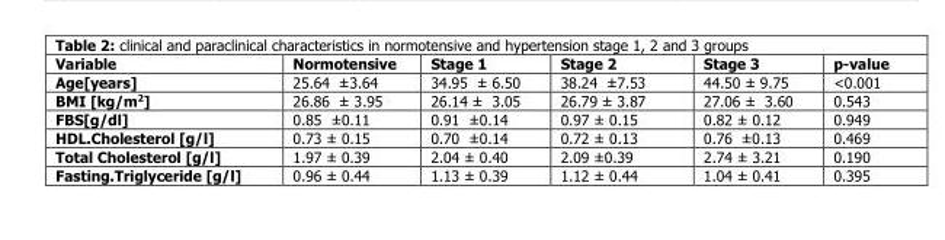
<table><thead><tr><td>Variable</td><td>Normotensive</td><td>Stage 1</td><td>Stage 2</td><td>Stage 3</td><td>p-value</td></tr></thead><tbody><tr><td>Age[years]</td><td>25.64 ±3.64</td><td>34.95 ± 6.50</td><td>38.24 ±7.53</td><td>44.50 ± 9.75</td><td>&lt;0.001</td></tr><tr><td>BMI [kg/m<sup>2</sup>]</td><td>26.86 ± 3.95</td><td>26.14 ± 3.05</td><td>26.79 ± 3.87</td><td>27.06 ± 3.60</td><td>0.543</td></tr><tr><td>FBS[g/dl]</td><td>0.85 ±0.11</td><td>0.91 ±0.14</td><td>0.97 ± 0.15</td><td>0.82 ± 0.12</td><td>0.949</td></tr><tr><td>HDL.Cholesterol [g/l]</td><td>0.73 ± 0.15</td><td>0.70 ±0.14</td><td>0.72 ± 0.13</td><td>0.76 ±0.13</td><td>0.469</td></tr><tr><td>Total Cholesterol [g/l]</td><td>1.97 ± 0.39</td><td>2.04 ± 0.40</td><td>2.09 ±0.39</td><td>2.74 ± 3.21</td><td>0.190</td></tr><tr><td>Fasting.Triglyceride [g/l]</td><td>0.96 ± 0.44</td><td>1.13 ± 0.39</td><td>1.12 ± 0.44</td><td>1.04 ± 0.41</td><td>0.395</td></tr></tbody></table>